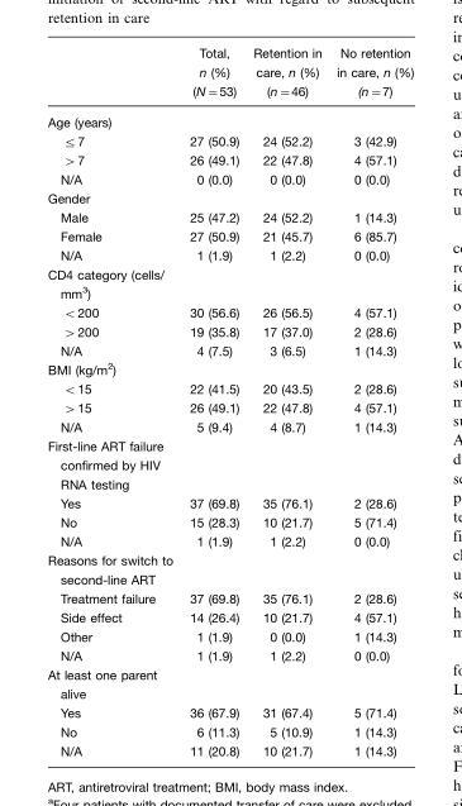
<table><thead><tr><td></td><td>Total, n (%) (N=53)</td><td>Retention in care, n (%) (n=46)</td><td>No retention in care, n (%) (n=7)</td></tr></thead><tbody><tr><td colspan="4">Age (years)</td></tr><tr><td>≤7</td><td>27 (50.9)</td><td>24 (52.2)</td><td>3 (42.9)</td></tr><tr><td>&gt;7</td><td>26 (49.1)</td><td>22 (47.8)</td><td>4 (57.1)</td></tr><tr><td>N/A</td><td>0 (0.0)</td><td>0 (0.0)</td><td>0 (0.0)</td></tr><tr><td colspan="4">Gender</td></tr><tr><td>Male</td><td>25 (47.2)</td><td>24 (52.2)</td><td>1 (14.3)</td></tr><tr><td>Female</td><td>27 (50.9)</td><td>21 (45.7)</td><td>6 (85.7)</td></tr><tr><td>N/A</td><td>1 (1.9)</td><td>1 (2.2)</td><td>0 (0.0)</td></tr><tr><td colspan="4">CD4 category (cells/ mm<sup>3</sup>)</td></tr><tr><td>&lt;200</td><td>30 (56.6)</td><td>26 (56.5)</td><td>4 (57.1)</td></tr><tr><td>&gt;200</td><td>19 (35.8)</td><td>17 (37.0)</td><td>2 (28.6)</td></tr><tr><td>N/A</td><td>4 (7.5)</td><td>3 (6.5)</td><td>1 (14.3)</td></tr><tr><td colspan="4">BMI (kg/m<sup>2</sup>)</td></tr><tr><td>&lt;15</td><td>22 (41.5)</td><td>20 (43.5)</td><td>2 (28.6)</td></tr><tr><td>&gt;15</td><td>26 (49.1)</td><td>22 (47.8)</td><td>4 (57.1)</td></tr><tr><td>N/A</td><td>5 (9.4)</td><td>4 (8.7)</td><td>1 (14.3)</td></tr><tr><td colspan="4">First-line ART failure confirmed by HIV RNA testing</td></tr><tr><td>Yes</td><td>37 (69.8)</td><td>35 (76.1)</td><td>2 (28.6)</td></tr><tr><td>No</td><td>15 (28.3)</td><td>10 (21.7)</td><td>5 (71.4)</td></tr><tr><td>N/A</td><td>1 (1.9)</td><td>1 (2.2)</td><td>0 (0.0)</td></tr><tr><td colspan="4">Reasons for switch to second-line ART</td></tr><tr><td>Treatment failure</td><td>37 (69.8)</td><td>35 (76.1)</td><td>2 (28.6)</td></tr><tr><td>Side effect</td><td>14 (26.4)</td><td>10 (21.7)</td><td>4 (57.1)</td></tr><tr><td>Other</td><td>1 (1.9)</td><td>0 (0.0)</td><td>1 (14.3)</td></tr><tr><td>N/A</td><td>1 (1.9)</td><td>1 (2.2)</td><td>0 (0.0)</td></tr><tr><td colspan="4">At least one parent alive</td></tr><tr><td>Yes</td><td>36 (67.9)</td><td>31 (67.4)</td><td>5 (71.4)</td></tr><tr><td>No</td><td>6 (11.3)</td><td>5 (10.9)</td><td>1 (14.3)</td></tr><tr><td>N/A</td><td>11 (20.8)</td><td>10 (21.7)</td><td>1 (14.3)</td></tr></tbody></table>